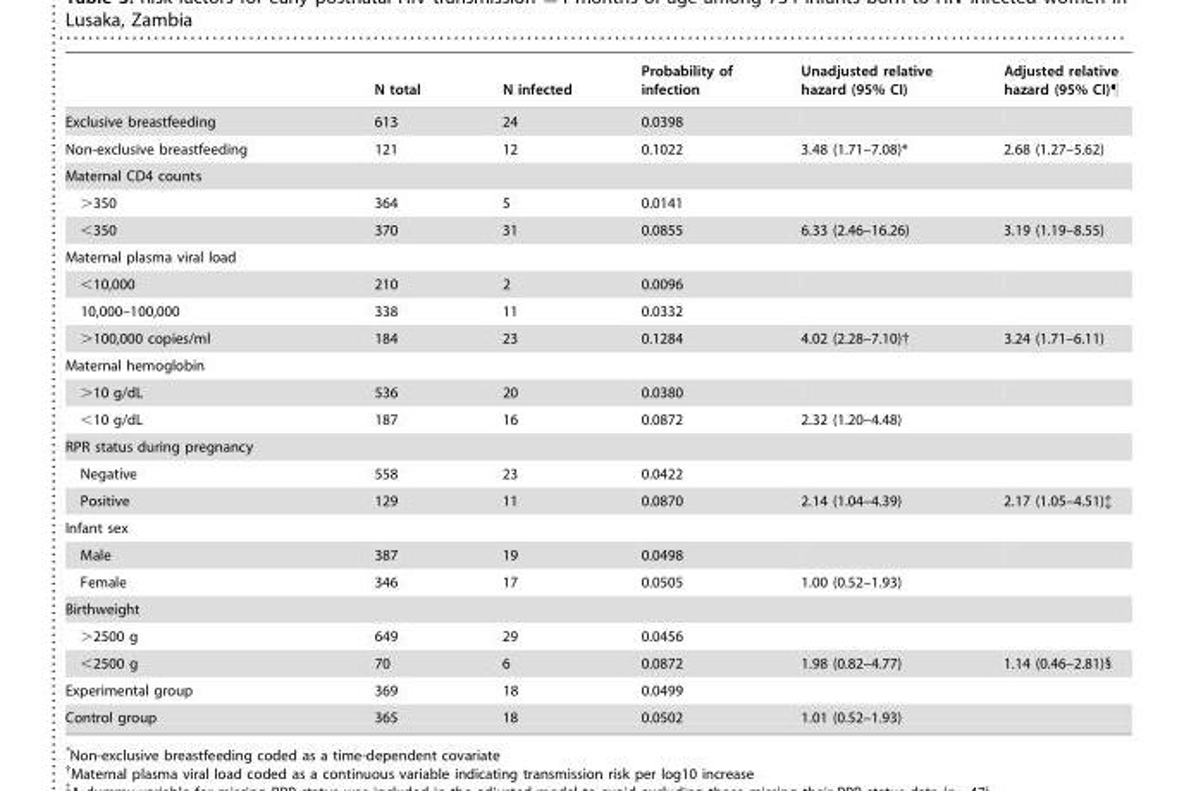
<table><thead><tr><td></td><td>N total</td><td>N infected</td><td>Probability of infection</td><td>Unadjusted relative hazard (95% CI)</td><td>Adjusted relative hazard (95% CI)¶</td></tr></thead><tbody><tr><td>Exclusive breastfeeding</td><td>613</td><td>24</td><td>0.0398</td><td></td><td></td></tr><tr><td>Non-exclusive breastfeeding</td><td>121</td><td>12</td><td>0.1022</td><td>3.48 (1.71–7.08)*</td><td>2.68 (1.27–5.62)</td></tr><tr><td colspan="6">Maternal CD4 counts</td></tr><tr><td>&gt;350</td><td>364</td><td>5</td><td>0.0141</td><td></td><td></td></tr><tr><td>&lt;350</td><td>370</td><td>31</td><td>0.0855</td><td>6.33 (2.46–16.26)</td><td>3.19 (1.19–8.55)</td></tr><tr><td colspan="6">Maternal plasma viral load</td></tr><tr><td>&lt;10,000</td><td>210</td><td>2</td><td>0.0096</td><td></td><td></td></tr><tr><td>10,000–100,000</td><td>338</td><td>11</td><td>0.0332</td><td></td><td></td></tr><tr><td>&gt;100,000 copies/ml</td><td>184</td><td>23</td><td>0.1284</td><td>4.02 (2.28–7.10)†</td><td>3.24 (1.71–6.11)</td></tr><tr><td colspan="6">Maternal hemoglobin</td></tr><tr><td>&gt;10 g/dL</td><td>536</td><td>20</td><td>0.0380</td><td></td><td></td></tr><tr><td>&lt;10 g/dL</td><td>187</td><td>16</td><td>0.0872</td><td>2.32 (1.20–4.48)</td><td></td></tr><tr><td colspan="6">RPR status during pregnancy</td></tr><tr><td>Negative</td><td>558</td><td>23</td><td>0.0422</td><td></td><td></td></tr><tr><td>Positive</td><td>129</td><td>11</td><td>0.0870</td><td>2.14 (1.04–4.39)</td><td>2.17 (1.05–4.51)‡</td></tr><tr><td colspan="6">Infant sex</td></tr><tr><td>Male</td><td>387</td><td>19</td><td>0.0498</td><td></td><td></td></tr><tr><td>Female</td><td>346</td><td>17</td><td>0.0505</td><td>1.00 (0.52–1.93)</td><td></td></tr><tr><td colspan="6">Birthweight</td></tr><tr><td>&gt;2500 g</td><td>649</td><td>29</td><td>0.0456</td><td></td><td></td></tr><tr><td>&lt;2500 g</td><td>70</td><td>6</td><td>0.0872</td><td>1.98 (0.82–4.77)</td><td>1.14 (0.46–2.81)§</td></tr><tr><td>Experimental group</td><td>369</td><td>18</td><td>0.0499</td><td></td><td></td></tr><tr><td>Control group</td><td>365</td><td>18</td><td>0.0502</td><td>1.01 (0.52–1.93)</td><td></td></tr></tbody></table>